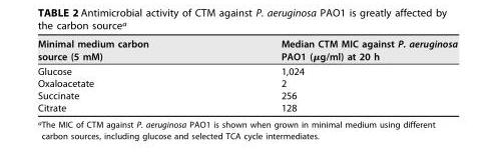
<table><thead><tr><td>Minimal medium carbon source (5 mM)</td><td>Median CTM MIC against P. aeruginosa PAO1 (μg/ml) at 20 h</td></tr></thead><tbody><tr><td>Glucose</td><td>1,024</td></tr><tr><td>Oxaloacetate</td><td>2</td></tr><tr><td>Succinate</td><td>256</td></tr><tr><td>Citrate</td><td>128</td></tr></tbody></table>